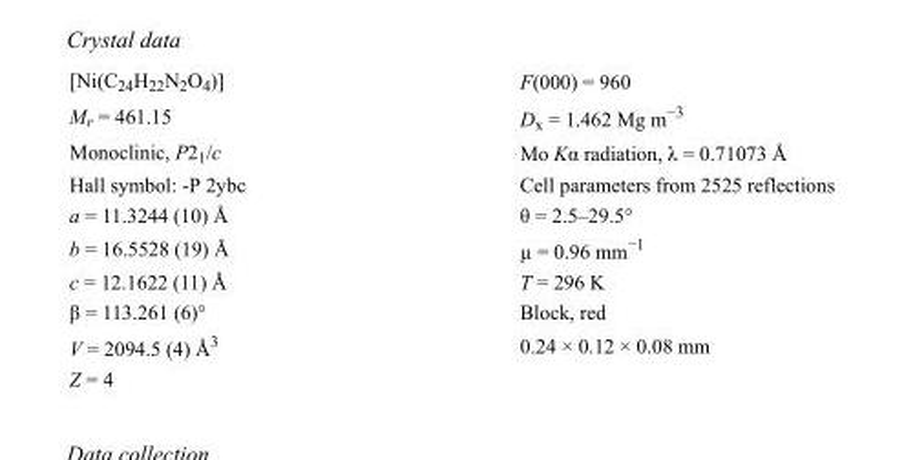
<table><tbody><tr><td>[Ni(C<sub>24</sub>H<sub>22</sub>N<sub>2</sub>O<sub>4</sub>)]</td><td>F(000) = 960</td></tr><tr><td>M<sub>r</sub> = 461.15</td><td>D<sub>x</sub> = 1.462 Mg m<sup>−3</sup></td></tr><tr><td>Monoclinic, P2<sub>1</sub>/c</td><td>Mo Kα radiation, λ = 0.71073 Å</td></tr><tr><td>Hall symbol: -P 2ybc</td><td>Cell parameters from 2525 reflections</td></tr><tr><td>a = 11.3244 (10) Å</td><td>θ = 2.5–29.5°</td></tr><tr><td>b = 16.5528 (19) Å</td><td>µ = 0.96 mm<sup>−1</sup></td></tr><tr><td>c = 12.1622 (11) Å</td><td>T = 296 K</td></tr><tr><td>β = 113.261 (6)°</td><td>Block, red</td></tr><tr><td>V = 2094.5 (4) Å<sup>3</sup></td><td>0.24 × 0.12 × 0.08 mm</td></tr><tr><td>Z = 4</td><td></td></tr></tbody></table>